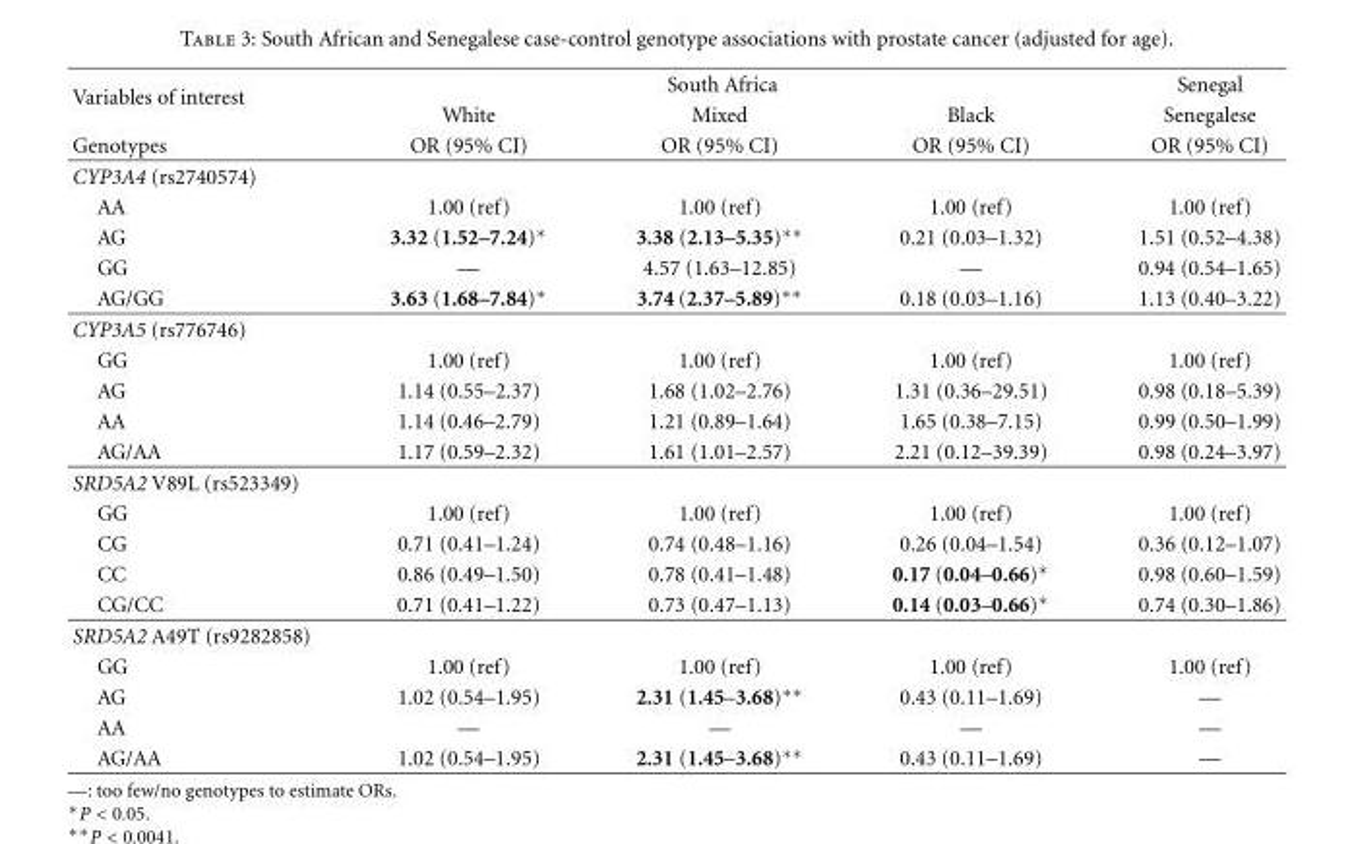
<table><thead><tr><td rowspan="3">Variables of interest Genotypes</td><td colspan="3">South Africa</td><td rowspan="3">Senegal Senegalese OR (95% CI)</td></tr><tr><td rowspan="2">White OR (95% CI)</td><td rowspan="2">Mixed OR (95% CI)</td><td rowspan="2">Black OR (95% CI)</td></tr><tr></tr></thead><tbody><tr><td colspan="5">CYP3A4 (rs2740574)</td></tr><tr><td>AA</td><td>1.00 (ref)</td><td>1.00 (ref)</td><td>1.00 (ref)</td><td>1.00 (ref)</td></tr><tr><td>AG</td><td>3.32 (1.52–7.24)∗</td><td>3.38 (2.13–5.35)∗∗</td><td>0.21 (0.03–1.32)</td><td>1.51 (0.52–4.38)</td></tr><tr><td>GG</td><td>—</td><td>4.57 (1.63–12.85)</td><td>—</td><td>0.94 (0.54–1.65)</td></tr><tr><td>AG/GG</td><td>3.63 (1.68–7.84)∗</td><td>3.74 (2.37–5.89)∗∗</td><td>0.18 (0.03–1.16)</td><td>1.13 (0.40–3.22)</td></tr><tr><td colspan="5">CYP3A5 (rs776746)</td></tr><tr><td>GG</td><td>1.00 (ref)</td><td>1.00 (ref)</td><td>1.00 (ref)</td><td>1.00 (ref)</td></tr><tr><td>AG</td><td>1.14 (0.55–2.37)</td><td>1.68 (1.02–2.76)</td><td>1.31 (0.36–29.51)</td><td>0.98 (0.18–5.39)</td></tr><tr><td>AA</td><td>1.14 (0.46–2.79)</td><td>1.21 (0.89–1.64)</td><td>1.65 (0.38–7.15)</td><td>0.99 (0.50–1.99)</td></tr><tr><td>AG/AA</td><td>1.17 (0.59–2.32)</td><td>1.61 (1.01–2.57)</td><td>2.21 (0.12–39.39)</td><td>0.98 (0.24–3.97)</td></tr><tr><td colspan="5">SRD5A2 V89L (rs523349)</td></tr><tr><td>GG</td><td>1.00 (ref)</td><td>1.00 (ref)</td><td>1.00 (ref)</td><td>1.00 (ref)</td></tr><tr><td>CG</td><td>0.71 (0.41–1.24)</td><td>0.74 (0.48–1.16)</td><td>0.26 (0.04–1.54)</td><td>0.36 (0.12–1.07)</td></tr><tr><td>CC</td><td>0.86 (0.49–1.50)</td><td>0.78 (0.41–1.48)</td><td>0.17 (0.04–0.66)∗</td><td>0.98 (0.60–1.59)</td></tr><tr><td>CG/CC</td><td>0.71 (0.41–1.22)</td><td>0.73 (0.47–1.13)</td><td>0.14 (0.03–0.66)∗</td><td>0.74 (0.30–1.86)</td></tr><tr><td colspan="5">SRD5A2 A49T (rs9282858)</td></tr><tr><td>GG</td><td>1.00 (ref)</td><td>1.00 (ref)</td><td>1.00 (ref)</td><td>1.00 (ref)</td></tr><tr><td>AG</td><td>1.02 (0.54–1.95)</td><td>2.31 (1.45–3.68)∗∗</td><td>0.43 (0.11–1.69)</td><td>—</td></tr><tr><td>AA</td><td>—</td><td>—</td><td>—</td><td>—</td></tr><tr><td>AG/AA</td><td>1.02 (0.54–1.95)</td><td>2.31 (1.45–3.68)∗∗</td><td>0.43 (0.11–1.69)</td><td>—</td></tr></tbody></table>